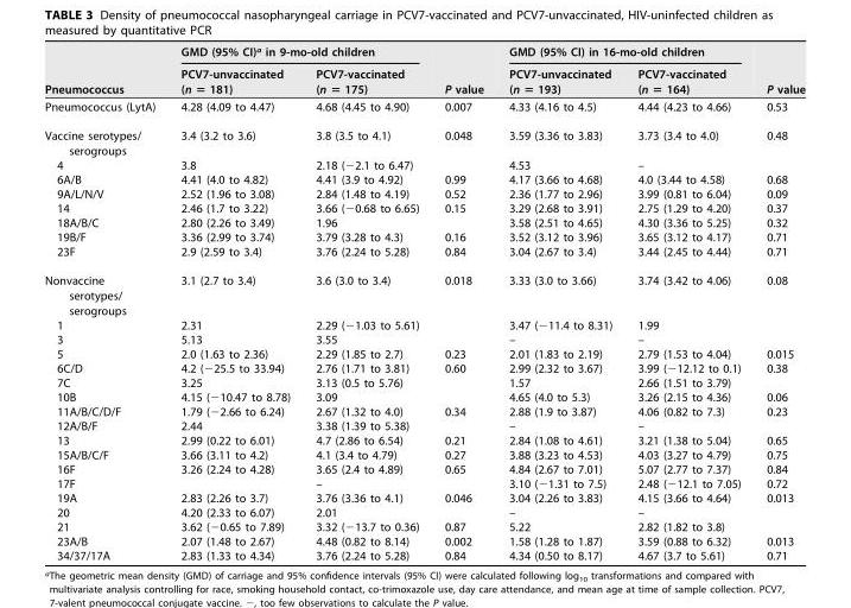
<table><thead><tr><td rowspan="2">Pneumococcus</td><td colspan="2">GMD (95% CI)<sup>a</sup> in 9-mo-old children</td><td rowspan="2">P value</td><td colspan="2">GMD (95% CI) in 16-mo-old children</td><td rowspan="2">P value</td></tr><tr><td>PCV7-unvaccinated (n = 181)</td><td>PCV7-vaccinated (n = 175)</td><td>PCV7-unvaccinated (n = 193)</td><td>PCV7-vaccinated (n = 164)</td></tr></thead><tbody><tr><td>Pneumococcus (LytA)</td><td>4.28 (4.09 to 4.47)</td><td>4.68 (4.45 to 4.90)</td><td>0.007</td><td>4.33 (4.16 to 4.5)</td><td>4.44 (4.23 to 4.66)</td><td>0.53</td></tr><tr><td>Vaccine serotypes/ serogroups</td><td>3.4 (3.2 to 3.6)</td><td>3.8 (3.5 to 4.1)</td><td>0.048</td><td>3.59 (3.36 to 3.83)</td><td>3.73 (3.4 to 4.0)</td><td>0.48</td></tr><tr><td>4</td><td>3.8</td><td>2.18 (−2.1 to 6.47)</td><td></td><td>4.53</td><td>–</td><td></td></tr><tr><td>6A/B</td><td>4.41 (4.0 to 4.82)</td><td>4.41 (3.9 to 4.92)</td><td>0.99</td><td>4.17 (3.66 to 4.68)</td><td>4.0 (3.44 to 4.58)</td><td>0.68</td></tr><tr><td>9A/L/N/V</td><td>2.52 (1.96 to 3.08)</td><td>2.84 (1.48 to 4.19)</td><td>0.52</td><td>2.36 (1.77 to 2.96)</td><td>3.99 (0.81 to 6.04)</td><td>0.09</td></tr><tr><td>14</td><td>2.46 (1.7 to 3.22)</td><td>3.66 (−0.68 to 6.65)</td><td>0.15</td><td>3.29 (2.68 to 3.91)</td><td>2.75 (1.29 to 4.20)</td><td>0.37</td></tr><tr><td>18A/B/C</td><td>2.80 (2.26 to 3.49)</td><td>1.96</td><td></td><td>3.58 (2.51 to 4.65)</td><td>4.30 (3.36 to 5.25)</td><td>0.32</td></tr><tr><td>19B/F</td><td>3.36 (2.99 to 3.74)</td><td>3.79 (3.28 to 4.3)</td><td>0.16</td><td>3.52 (3.12 to 3.96)</td><td>3.65 (3.12 to 4.17)</td><td>0.71</td></tr><tr><td>23F</td><td>2.9 (2.59 to 3.4)</td><td>3.76 (2.24 to 5.28)</td><td>0.84</td><td>3.04 (2.67 to 3.4)</td><td>3.44 (2.45 to 4.44)</td><td>0.71</td></tr><tr><td>Nonvaccine serotypes/ serogroups</td><td>3.1 (2.7 to 3.4)</td><td>3.6 (3.0 to 3.4)</td><td>0.018</td><td>3.33 (3.0 to 3.66)</td><td>3.74 (3.42 to 4.06)</td><td>0.08</td></tr><tr><td>1</td><td>2.31</td><td>2.29 (−1.03 to 5.61)</td><td></td><td>3.47 (−11.4 to 8.31)</td><td>1.99</td><td></td></tr><tr><td>3</td><td>5.13</td><td>3.55</td><td></td><td>–</td><td>–</td><td></td></tr><tr><td>5</td><td>2.0 (1.63 to 2.36)</td><td>2.29 (1.85 to 2.7)</td><td>0.23</td><td>2.01 (1.83 to 2.19)</td><td>2.79 (1.53 to 4.04)</td><td>0.015</td></tr><tr><td>6C/D</td><td>4.2 (−25.5 to 33.94)</td><td>2.76 (1.71 to 3.81)</td><td>0.60</td><td>2.99 (2.32 to 3.67)</td><td>3.99 (−12.12 to 0.1)</td><td>0.38</td></tr><tr><td>7C</td><td>3.25</td><td>3.13 (0.5 to 5.76)</td><td></td><td>1.57</td><td>2.66 (1.51 to 3.79)</td><td></td></tr><tr><td>10B</td><td>4.15 (−10.47 to 8.78)</td><td>3.09</td><td></td><td>4.65 (4.0 to 5.3)</td><td>3.26 (2.15 to 4.36)</td><td>0.06</td></tr><tr><td>11A/B/C/D/F</td><td>1.79 (−2.66 to 6.24)</td><td>2.67 (1.32 to 4.0)</td><td>0.34</td><td>2.88 (1.9 to 3.87)</td><td>4.06 (0.82 to 7.3)</td><td>0.23</td></tr><tr><td>12A/B/F</td><td>2.44</td><td>3.38 (1.39 to 5.38)</td><td></td><td>–</td><td>–</td><td></td></tr><tr><td>13</td><td>2.99 (0.22 to 6.01)</td><td>4.7 (2.86 to 6.54)</td><td>0.21</td><td>2.84 (1.08 to 4.61)</td><td>3.21 (1.38 to 5.04)</td><td>0.65</td></tr><tr><td>15A/B/C/F</td><td>3.66 (3.11 to 4.2)</td><td>4.1 (3.4 to 4.79)</td><td>0.27</td><td>3.88 (3.23 to 4.53)</td><td>4.03 (3.27 to 4.79)</td><td>0.75</td></tr><tr><td>16F</td><td>3.26 (2.24 to 4.28)</td><td>3.65 (2.4 to 4.89)</td><td>0.65</td><td>4.84 (2.67 to 7.01)</td><td>5.07 (2.77 to 7.37)</td><td>0.84</td></tr><tr><td>17F</td><td></td><td>–</td><td></td><td>3.10 (−1.31 to 7.5)</td><td>2.48 (−12.1 to 7.05)</td><td>0.72</td></tr><tr><td>19A</td><td>2.83 (2.26 to 3.7)</td><td>3.76 (3.36 to 4.1)</td><td>0.046</td><td>3.04 (2.26 to 3.83)</td><td>4.15 (3.66 to 4.64)</td><td>0.013</td></tr><tr><td>20</td><td>4.20 (2.33 to 6.07)</td><td>2.01</td><td></td><td>–</td><td>–</td><td></td></tr><tr><td>21</td><td>3.62 (−0.65 to 7.89)</td><td>3.32 (−13.7 to 0.36)</td><td>0.87</td><td>5.22</td><td>2.82 (1.82 to 3.8)</td><td></td></tr><tr><td>23A/B</td><td>2.07 (1.48 to 2.67)</td><td>4.48 (0.82 to 8.14)</td><td>0.002</td><td>1.58 (1.28 to 1.87)</td><td>3.59 (0.88 to 6.32)</td><td>0.013</td></tr><tr><td>34/37/17A</td><td>2.83 (1.33 to 4.34)</td><td>3.76 (2.24 to 5.28)</td><td>0.84</td><td>4.34 (0.50 to 8.17)</td><td>4.67 (3.7 to 5.61)</td><td>0.71</td></tr></tbody></table>